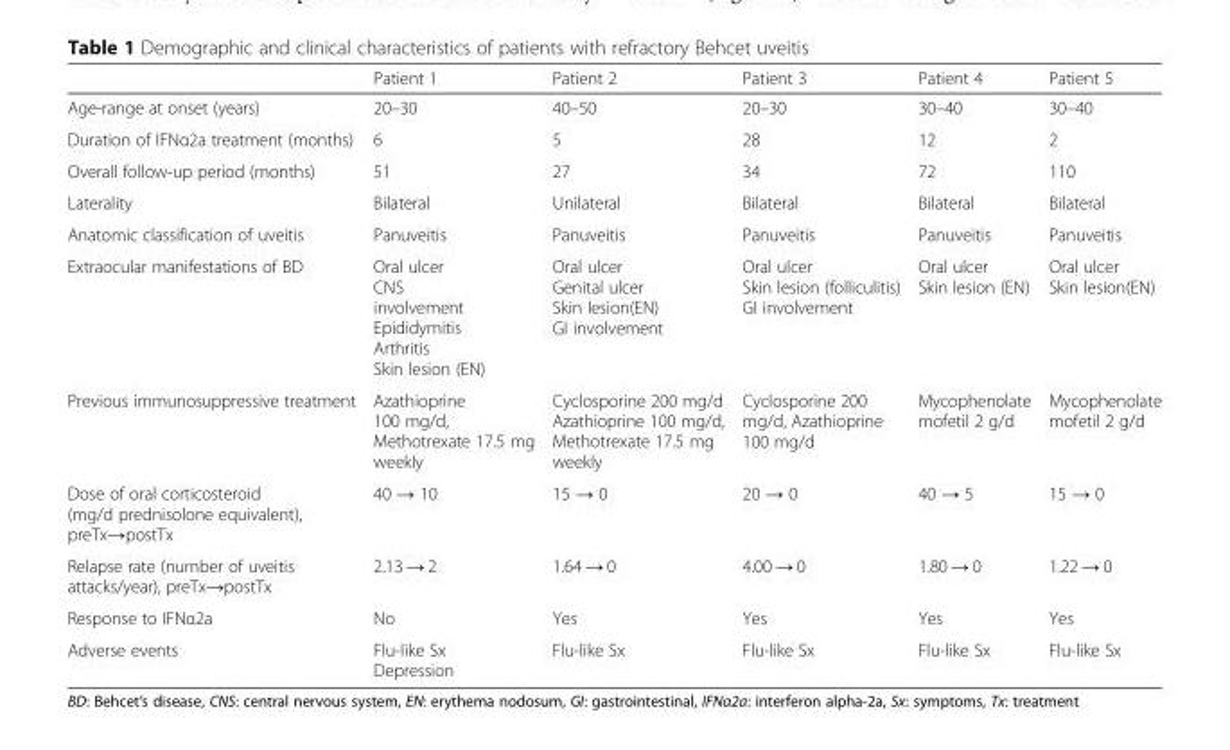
<table><thead><tr><td></td><td>Patient 1</td><td>Patient 2</td><td>Patient 3</td><td>Patient 4</td><td>Patient 5</td></tr></thead><tbody><tr><td>Age-range at onset (years)</td><td>20–30</td><td>40–50</td><td>20–30</td><td>30–40</td><td>30–40</td></tr><tr><td>Duration of IFNα2a treatment (months)</td><td>6</td><td>5</td><td>28</td><td>12</td><td>2</td></tr><tr><td>Overall follow-up period (months)</td><td>51</td><td>27</td><td>34</td><td>72</td><td>110</td></tr><tr><td>Laterality</td><td>Bilateral</td><td>Unilateral</td><td>Bilateral</td><td>Bilateral</td><td>Bilateral</td></tr><tr><td>Anatomic classification of uveitis</td><td>Panuveitis</td><td>Panuveitis</td><td>Panuveitis</td><td>Panuveitis</td><td>Panuveitis</td></tr><tr><td>Extraocular manifestations of BD</td><td>Oral ulcer CNS involvement Epididymitis Arthritis Skin lesion (EN)</td><td>Oral ulcer Genital ulcer Skin lesion(EN) GI involvement</td><td>Oral ulcer Skin lesion (folliculitis) GI involvement</td><td>Oral ulcer Skin lesion (EN)</td><td>Oral ulcer Skin lesion(EN)</td></tr><tr><td>Previous immunosuppressive treatment</td><td>Azathioprine 100 mg/d, Methotrexate 17.5 mg weekly</td><td>Cyclosporine 200 mg/d Azathioprine 100 mg/d, Methotrexate 17.5 mg weekly</td><td>Cyclosporine 200 mg/d, Azathioprine 100 mg/d</td><td>Mycophenolate mofetil 2 g/d</td><td>Mycophenolate mofetil 2 g/d</td></tr><tr><td>Dose of oral corticosteroid (mg/d prednisolone equivalent), preTx→postTx</td><td>40 → 10</td><td>15 → 0</td><td>20 → 0</td><td>40 → 5</td><td>15 → 0</td></tr><tr><td>Relapse rate (number of uveitis attacks/year), preTx→postTx</td><td>2.13 → 2</td><td>1.64 → 0</td><td>4.00 → 0</td><td>1.80 → 0</td><td>1.22 → 0</td></tr><tr><td>Response to IFNα2a</td><td>No</td><td>Yes</td><td>Yes</td><td>Yes</td><td>Yes</td></tr><tr><td>Adverse events</td><td>Flu-like Sx Depression</td><td>Flu-like Sx</td><td>Flu-like Sx</td><td>Flu-like Sx</td><td>Flu-like Sx</td></tr></tbody></table>